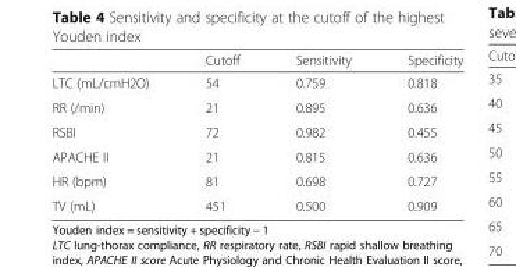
<table><thead><tr><td></td><td>Cutoff</td><td>Sensitivity</td><td>Specificity</td></tr></thead><tbody><tr><td>LTC (mL/cmH2O)</td><td>54</td><td>0.759</td><td>0.818</td></tr><tr><td>RR (/min)</td><td>21</td><td>0.895</td><td>0.636</td></tr><tr><td>RSBI</td><td>72</td><td>0.982</td><td>0.455</td></tr><tr><td>APACHE II</td><td>21</td><td>0.815</td><td>0.636</td></tr><tr><td>HR (bpm)</td><td>81</td><td>0.698</td><td>0.727</td></tr><tr><td>TV (mL)</td><td>451</td><td>0.500</td><td>0.909</td></tr></tbody></table>